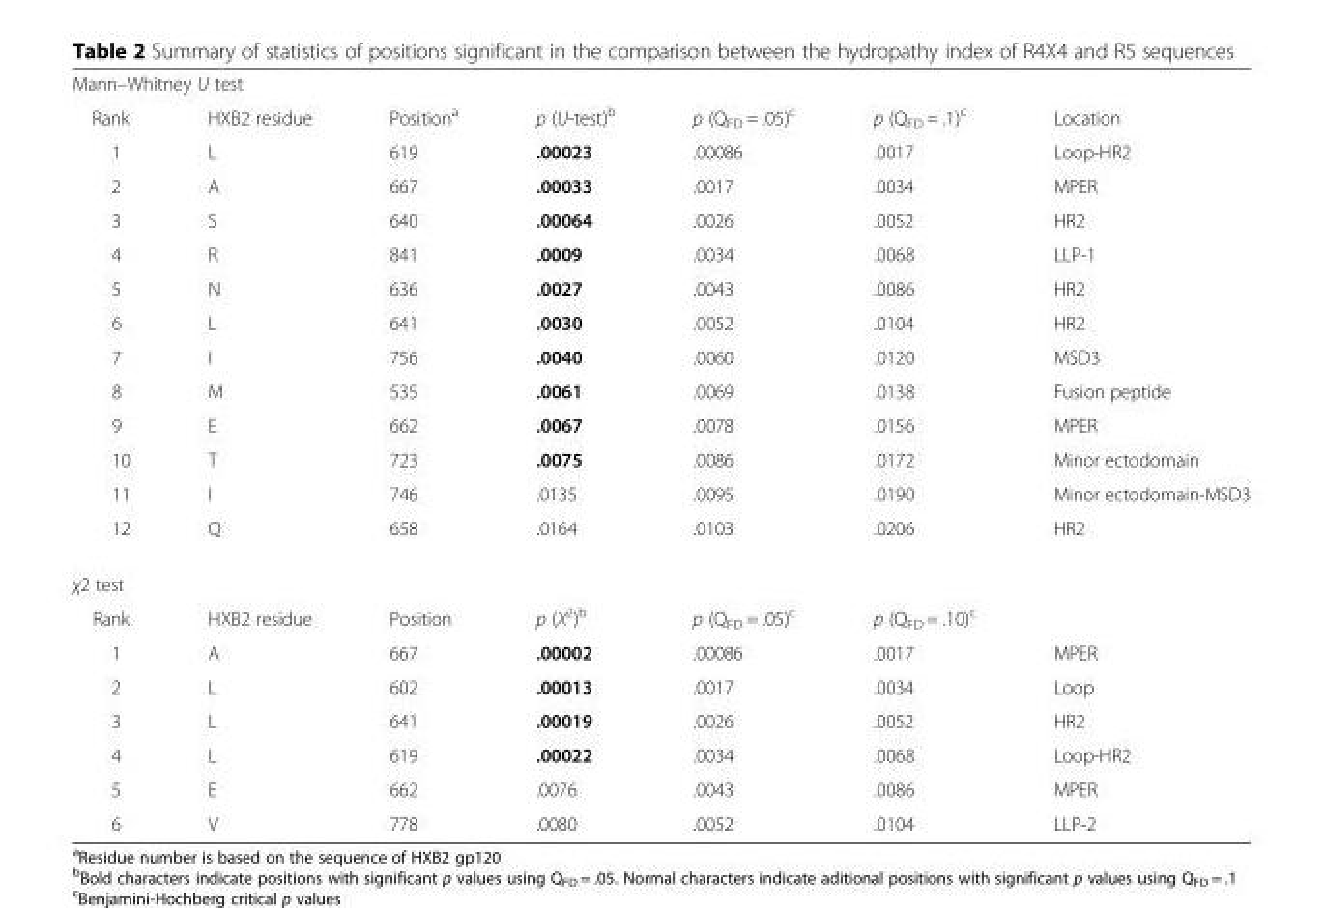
<table><tbody><tr><td colspan="7">Mann–Whitney U test</td></tr><tr><td>Rank</td><td>HXB2 residue</td><td>Position<sup>a</sup></td><td>p (U-test)<sup>b</sup></td><td>p (Q<sub>FD</sub> = .05)<sup>c</sup></td><td>p (Q<sub>FD</sub> = .1)<sup>c</sup></td><td>Location</td></tr><tr><td>1</td><td>L</td><td>619</td><td>.00023</td><td>.00086</td><td>.0017</td><td>Loop-HR2</td></tr><tr><td>2</td><td>A</td><td>667</td><td>.00033</td><td>.0017</td><td>.0034</td><td>MPER</td></tr><tr><td>3</td><td>S</td><td>640</td><td>.00064</td><td>.0026</td><td>.0052</td><td>HR2</td></tr><tr><td>4</td><td>R</td><td>841</td><td>.0009</td><td>.0034</td><td>.0068</td><td>LLP-1</td></tr><tr><td>5</td><td>N</td><td>636</td><td>.0027</td><td>.0043</td><td>.0086</td><td>HR2</td></tr><tr><td>6</td><td>L</td><td>641</td><td>.0030</td><td>.0052</td><td>.0104</td><td>HR2</td></tr><tr><td>7</td><td>I</td><td>756</td><td>.0040</td><td>.0060</td><td>.0120</td><td>MSD3</td></tr><tr><td>8</td><td>M</td><td>535</td><td>.0061</td><td>.0069</td><td>.0138</td><td>Fusion peptide</td></tr><tr><td>9</td><td>E</td><td>662</td><td>.0067</td><td>.0078</td><td>.0156</td><td>MPER</td></tr><tr><td>10</td><td>T</td><td>723</td><td>.0075</td><td>.0086</td><td>.0172</td><td>Minor ectodomain</td></tr><tr><td>11</td><td>I</td><td>746</td><td>.0135</td><td>.0095</td><td>.0190</td><td>Minor ectodomain-MSD3</td></tr><tr><td>12</td><td>Q</td><td>658</td><td>.0164</td><td>.0103</td><td>.0206</td><td>HR2</td></tr><tr><td colspan="7">χ2 test</td></tr><tr><td>Rank</td><td>HXB2 residue</td><td>Position</td><td>p (X<sup>2</sup>)<sup>b</sup></td><td>p (Q<sub>FD</sub> = .05)<sup>c</sup></td><td>p (Q<sub>FD</sub> = .10)<sup>c</sup></td><td></td></tr><tr><td>1</td><td>A</td><td>667</td><td>.00002</td><td>.00086</td><td>.0017</td><td>MPER</td></tr><tr><td>2</td><td>L</td><td>602</td><td>.00013</td><td>.0017</td><td>.0034</td><td>Loop</td></tr><tr><td>3</td><td>L</td><td>641</td><td>.00019</td><td>.0026</td><td>.0052</td><td>HR2</td></tr><tr><td>4</td><td>L</td><td>619</td><td>.00022</td><td>.0034</td><td>.0068</td><td>Loop-HR2</td></tr><tr><td>5</td><td>E</td><td>662</td><td>.0076</td><td>.0043</td><td>.0086</td><td>MPER</td></tr><tr><td>6</td><td>V</td><td>778</td><td>.0080</td><td>.0052</td><td>.0104</td><td>LLP-2</td></tr></tbody></table>